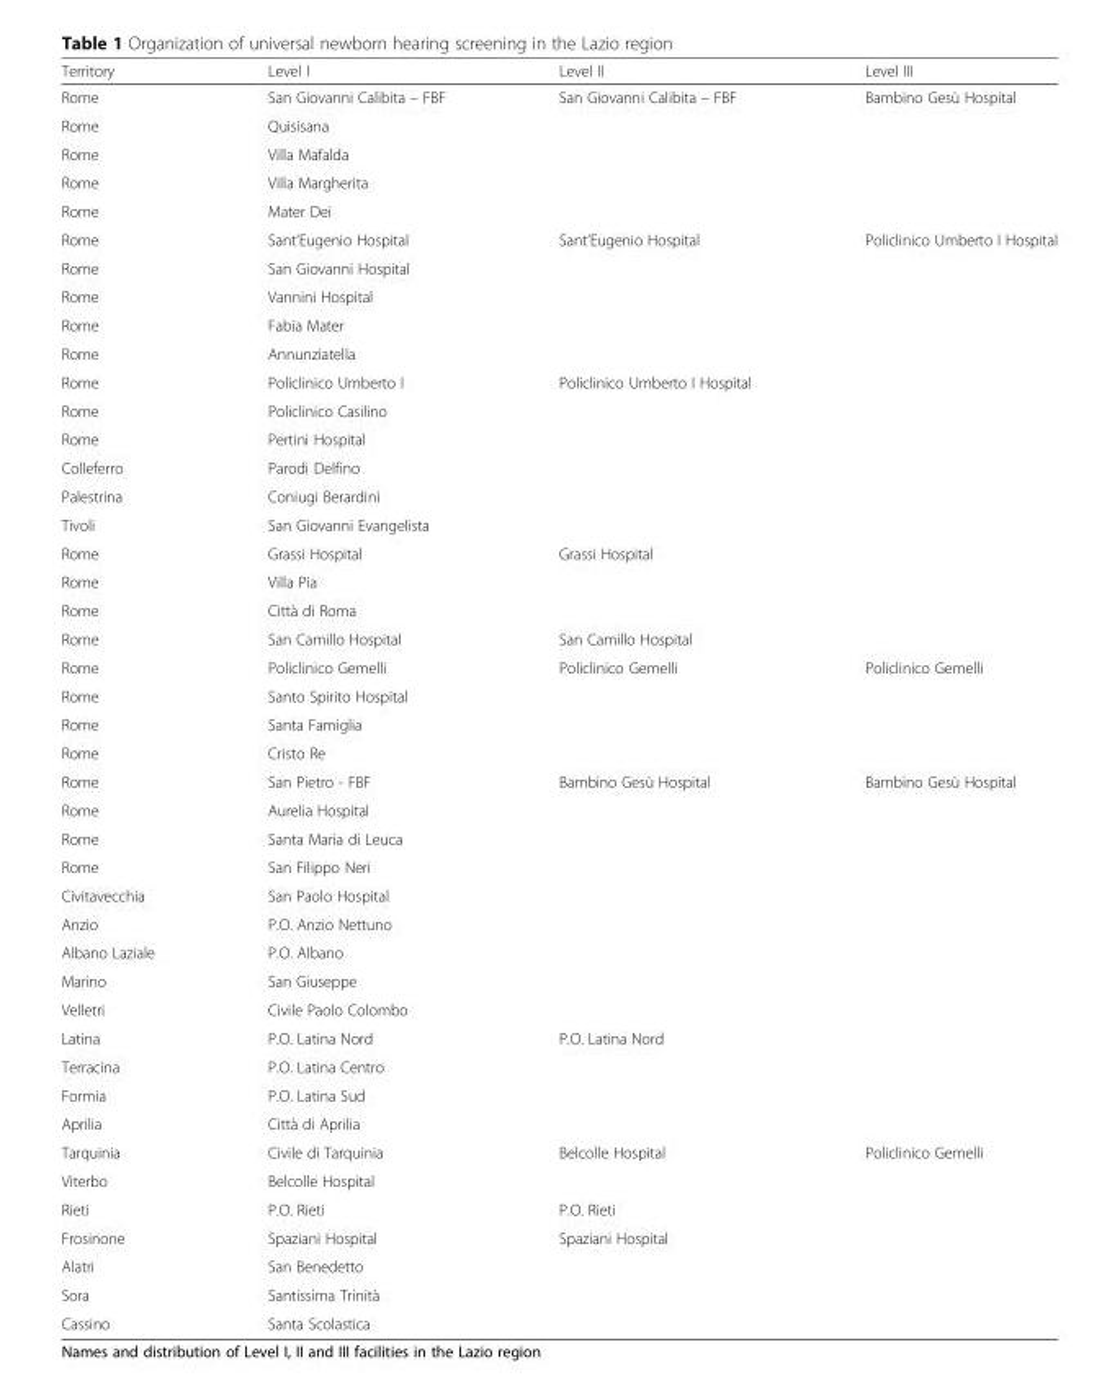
<table><thead><tr><td>Territory</td><td>Level I</td><td>Level II</td><td>Level III</td></tr></thead><tbody><tr><td>Rome</td><td>San Giovanni Calibita – FBF</td><td rowspan="5">San Giovanni Calibita – FBF</td><td rowspan="5">Bambino Gesù Hospital</td></tr><tr><td>Rome</td><td>Quisisana</td></tr><tr><td>Rome</td><td>Villa Mafalda</td></tr><tr><td>Rome</td><td>Villa Margherita</td></tr><tr><td>Rome</td><td>Mater Dei</td></tr><tr><td>Rome</td><td>Sant’Eugenio Hospital</td><td rowspan="5">Sant’Eugenio Hospital</td><td rowspan="15">Policlinico Umberto I Hospital</td></tr><tr><td>Rome</td><td>San Giovanni Hospital</td></tr><tr><td>Rome</td><td>Vannini Hospital</td></tr><tr><td>Rome</td><td>Fabia Mater</td></tr><tr><td>Rome</td><td>Annunziatella</td></tr><tr><td>Rome</td><td>Policlinico Umberto I</td><td rowspan="6">Policlinico Umberto I Hospital</td></tr><tr><td>Rome</td><td>Policlinico Casilino</td></tr><tr><td>Rome</td><td>Pertini Hospital</td></tr><tr><td>Colleferro</td><td>Parodi Delfino</td></tr><tr><td>Palestrina</td><td>Coniugi Berardini</td></tr><tr><td>Tivoli</td><td>San Giovanni Evangelista</td></tr><tr><td>Rome</td><td>Grassi Hospital</td><td rowspan="3">Grassi Hospital</td></tr><tr><td>Rome</td><td>Villa Pia</td></tr><tr><td>Rome</td><td>Città di Roma</td></tr><tr><td>Rome</td><td>San Camillo Hospital</td><td>San Camillo Hospital</td></tr><tr><td>Rome</td><td>Policlinico Gemelli</td><td rowspan="4">Policlinico Gemelli</td><td rowspan="4">Policlinico Gemelli</td></tr><tr><td>Rome</td><td>Santo Spirito Hospital</td></tr><tr><td>Rome</td><td>Santa Famiglia</td></tr><tr><td>Rome</td><td>Cristo Re</td></tr><tr><td>Rome</td><td>San Pietro - FBF</td><td rowspan="9">Bambino Gesù Hospital</td><td rowspan="13">Bambino Gesù Hospital</td></tr><tr><td>Rome</td><td>Aurelia Hospital</td></tr><tr><td>Rome</td><td>Santa Maria di Leuca</td></tr><tr><td>Rome</td><td>San Filippo Neri</td></tr><tr><td>Civitavecchia</td><td>San Paolo Hospital</td></tr><tr><td>Anzio</td><td>P.O. Anzio Nettuno</td></tr><tr><td>Albano Laziale</td><td>P.O. Albano</td></tr><tr><td>Marino</td><td>San Giuseppe</td></tr><tr><td>Velletri</td><td>Civile Paolo Colombo</td></tr><tr><td>Latina</td><td>P.O. Latina Nord</td><td rowspan="4">P.O. Latina Nord</td></tr><tr><td>Terracina</td><td>P.O. Latina Centro</td></tr><tr><td>Formia</td><td>P.O. Latina Sud</td></tr><tr><td>Aprilia</td><td>Città di Aprilia</td></tr><tr><td>Tarquinia</td><td>Civile di Tarquinia</td><td rowspan="2">Belcolle Hospital</td><td rowspan="7">Policlinico Gemelli</td></tr><tr><td>Viterbo</td><td>Belcolle Hospital</td></tr><tr><td>Rieti</td><td>P.O. Rieti</td><td>P.O. Rieti</td></tr><tr><td>Frosinone</td><td>Spaziani Hospital</td><td rowspan="4">Spaziani Hospital</td></tr><tr><td>Alatri</td><td>San Benedetto</td></tr><tr><td>Sora</td><td>Santissima Trinità</td></tr><tr><td>Cassino</td><td>Santa Scolastica</td></tr></tbody></table>